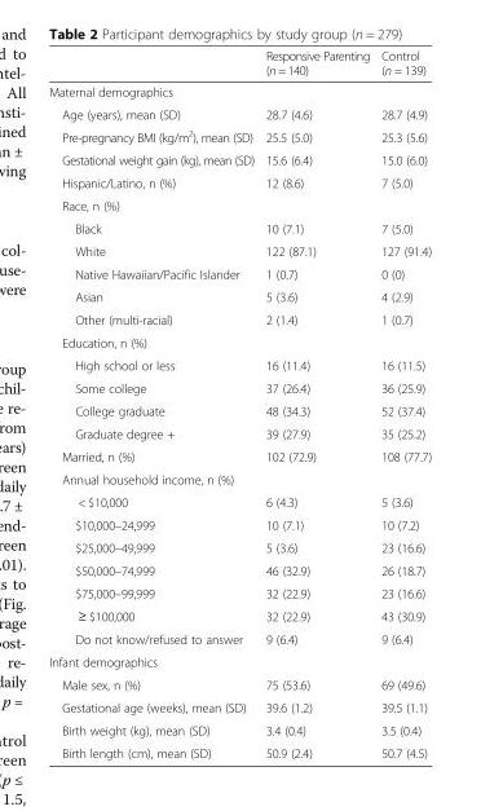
<table><thead><tr><td></td><td>Responsive Parenting (n = 140)</td><td>Control (n = 139)</td></tr></thead><tbody><tr><td colspan="3">Maternal demographics</td></tr><tr><td>Age (years), mean (SD)</td><td>28.7 (4.6)</td><td>28.7 (4.9)</td></tr><tr><td>Pre-pregnancy BMI (kg/m<sup>2</sup>), mean (SD)</td><td>25.5 (5.0)</td><td>25.3 (5.6)</td></tr><tr><td>Gestational weight gain (kg), mean (SD)</td><td>15.6 (6.4)</td><td>15.0 (6.0)</td></tr><tr><td>Hispanic/Latino, n (%)</td><td>12 (8.6)</td><td>7 (5.0)</td></tr><tr><td colspan="3">Race, n (%)</td></tr><tr><td>Black</td><td>10 (7.1)</td><td>7 (5.0)</td></tr><tr><td>White</td><td>122 (87.1)</td><td>127 (91.4)</td></tr><tr><td>Native Hawaiian/Pacific Islander</td><td>1 (0.7)</td><td>0 (0)</td></tr><tr><td>Asian</td><td>5 (3.6)</td><td>4 (2.9)</td></tr><tr><td>Other (multi-racial)</td><td>2 (1.4)</td><td>1 (0.7)</td></tr><tr><td colspan="3">Education, n (%)</td></tr><tr><td>High school or less</td><td>16 (11.4)</td><td>16 (11.5)</td></tr><tr><td>Some college</td><td>37 (26.4)</td><td>36 (25.9)</td></tr><tr><td>College graduate</td><td>48 (34.3)</td><td>52 (37.4)</td></tr><tr><td>Graduate degree +</td><td>39 (27.9)</td><td>35 (25.2)</td></tr><tr><td>Married, n (%)</td><td>102 (72.9)</td><td>108 (77.7)</td></tr><tr><td colspan="3">Annual household income, n (%)</td></tr><tr><td>&lt; $10,000</td><td>6 (4.3)</td><td>5 (3.6)</td></tr><tr><td>$10,000–24,999</td><td>10 (7.1)</td><td>10 (7.2)</td></tr><tr><td>$25,000–49,999</td><td>5 (3.6)</td><td>23 (16.6)</td></tr><tr><td>$50,000–74,999</td><td>46 (32.9)</td><td>26 (18.7)</td></tr><tr><td>$75,000–99,999</td><td>32 (22.9)</td><td>23 (16.6)</td></tr><tr><td>≥ $100,000</td><td>32 (22.9)</td><td>43 (30.9)</td></tr><tr><td>Do not know/refused to answer</td><td>9 (6.4)</td><td>9 (6.4)</td></tr><tr><td colspan="3">Infant demographics</td></tr><tr><td>Male sex, n (%)</td><td>75 (53.6)</td><td>69 (49.6)</td></tr><tr><td>Gestational age (weeks), mean (SD)</td><td>39.6 (1.2)</td><td>39.5 (1.1)</td></tr><tr><td>Birth weight (kg), mean (SD)</td><td>3.4 (0.4)</td><td>3.5 (0.4)</td></tr><tr><td>Birth length (cm), mean (SD)</td><td>50.9 (2.4)</td><td>50.7 (4.5)</td></tr></tbody></table>